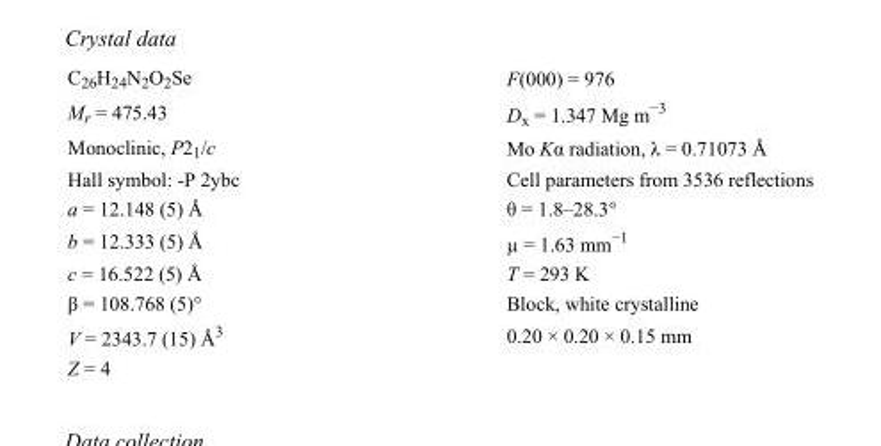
<table><tbody><tr><td>C<sub>26</sub>H<sub>24</sub>N<sub>2</sub>O<sub>2</sub>Se</td><td>F(000) = 976</td></tr><tr><td>M<sub>r</sub> = 475.43</td><td>D<sub>x</sub> = 1.347 Mg m<sup>−3</sup></td></tr><tr><td>Monoclinic, P2<sub>1</sub>/c</td><td>Mo Kα radiation, λ = 0.71073 Å</td></tr><tr><td>Hall symbol: -P 2ybc</td><td>Cell parameters from 3536 reflections</td></tr><tr><td>a = 12.148 (5) Å</td><td>θ = 1.8–28.3°</td></tr><tr><td>b = 12.333 (5) Å</td><td>µ = 1.63 mm<sup>−1</sup></td></tr><tr><td>c = 16.522 (5) Å</td><td>T = 293 K</td></tr><tr><td>β = 108.768 (5)°</td><td>Block, white crystalline</td></tr><tr><td>V = 2343.7 (15) Å<sup>3</sup></td><td>0.20 × 0.20 × 0.15 mm</td></tr><tr><td>Z = 4</td><td></td></tr></tbody></table>